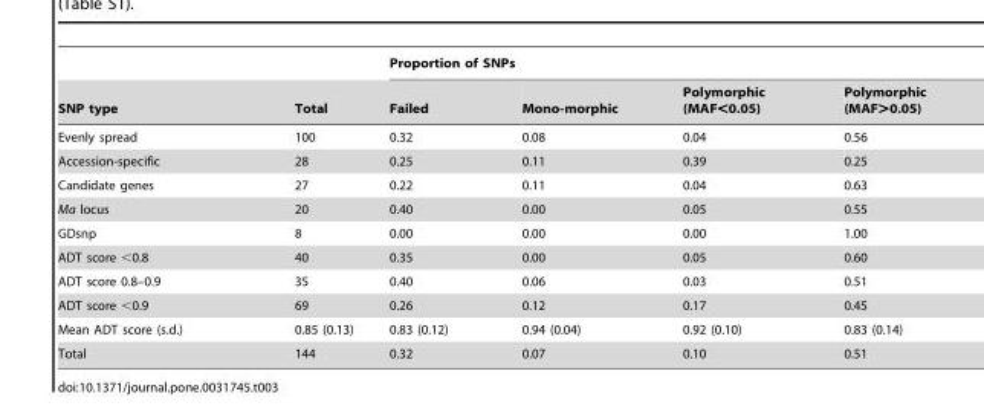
<table><thead><tr><td rowspan="2">SNP type</td><td rowspan="2">Total</td><td colspan="4">Proportion of SNPs</td></tr><tr><td>Failed</td><td>Mono-morphic</td><td>Polymorphic (MAF&lt;0.05)</td><td>Polymorphic (MAF&gt;0.05)</td></tr></thead><tbody><tr><td>Evenly spread</td><td>100</td><td>0.32</td><td>0.08</td><td>0.04</td><td>0.56</td></tr><tr><td>Accession-specific</td><td>28</td><td>0.25</td><td>0.11</td><td>0.39</td><td>0.25</td></tr><tr><td>Candidate genes</td><td>27</td><td>0.22</td><td>0.11</td><td>0.04</td><td>0.63</td></tr><tr><td>Ma locus</td><td>20</td><td>0.40</td><td>0.00</td><td>0.05</td><td>0.55</td></tr><tr><td>GDsnp</td><td>8</td><td>0.00</td><td>0.00</td><td>0.00</td><td>1.00</td></tr><tr><td>ADT score &lt;0.8</td><td>40</td><td>0.35</td><td>0.00</td><td>0.05</td><td>0.60</td></tr><tr><td>ADT score 0.8–0.9</td><td>35</td><td>0.40</td><td>0.06</td><td>0.03</td><td>0.51</td></tr><tr><td>ADT score &lt;0.9</td><td>69</td><td>0.26</td><td>0.12</td><td>0.17</td><td>0.45</td></tr><tr><td>Mean ADT score (s.d.)</td><td>0.85 (0.13)</td><td>0.83 (0.12)</td><td>0.94 (0.04)</td><td>0.92 (0.10)</td><td>0.83 (0.14)</td></tr><tr><td>Total</td><td>144</td><td>0.32</td><td>0.07</td><td>0.10</td><td>0.51</td></tr></tbody></table>